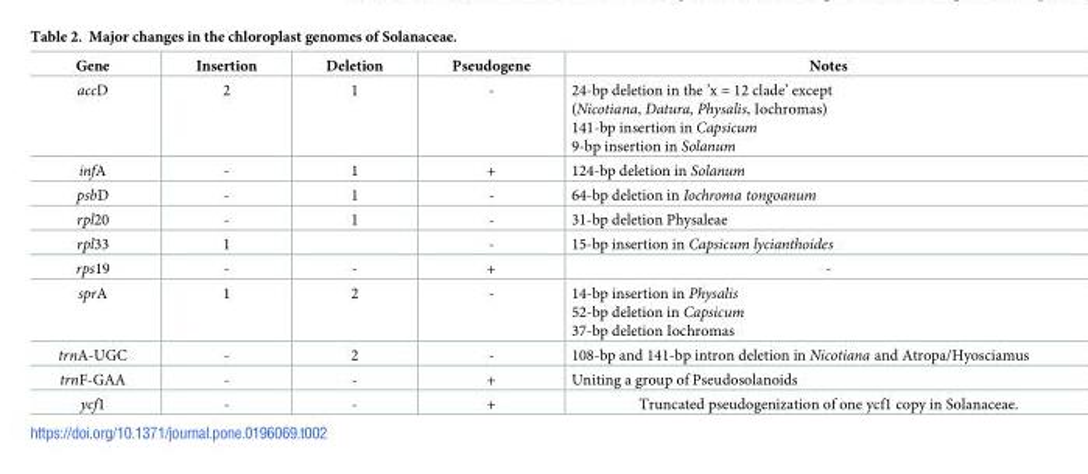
<table><thead><tr><td>Gene</td><td>Insertion</td><td>Deletion</td><td>Pseudogene</td><td>Notes</td></tr></thead><tbody><tr><td>accD</td><td>2</td><td>1</td><td>-</td><td>24-bp deletion in the ’x = 12 clade’ except (Nicotiana, Datura, Physalis, Iochromas) 141-bp insertion in Capsicum 9-bp insertion in Solanum</td></tr><tr><td>infA</td><td>-</td><td>1</td><td>+</td><td>124-bp deletion in Solanum</td></tr><tr><td>psbD</td><td>-</td><td>1</td><td>-</td><td>64-bp deletion in Iochroma tongoanum</td></tr><tr><td>rpl20</td><td>-</td><td>1</td><td>-</td><td>31-bp deletion Physaleae</td></tr><tr><td>rpl33</td><td>1</td><td></td><td>-</td><td>15-bp insertion in Capsicum lycianthoides</td></tr><tr><td>rps19</td><td>-</td><td>-</td><td>+</td><td>-</td></tr><tr><td>sprA</td><td>1</td><td>2</td><td>-</td><td>14-bp insertion in Physalis 52-bp deletion in Capsicum 37-bp deletion Iochromas</td></tr><tr><td>trnA-UGC</td><td>-</td><td>2</td><td>-</td><td>108-bp and 141-bp intron deletion in Nicotiana and Atropa/Hyosciamus</td></tr><tr><td>trnF-GAA</td><td>-</td><td>-</td><td>+</td><td>Uniting a group of Pseudosolanoids</td></tr><tr><td>ycf1</td><td>-</td><td>-</td><td>+</td><td>Truncated pseudogenization of one ycf1 copy in Solanaceae.</td></tr></tbody></table>